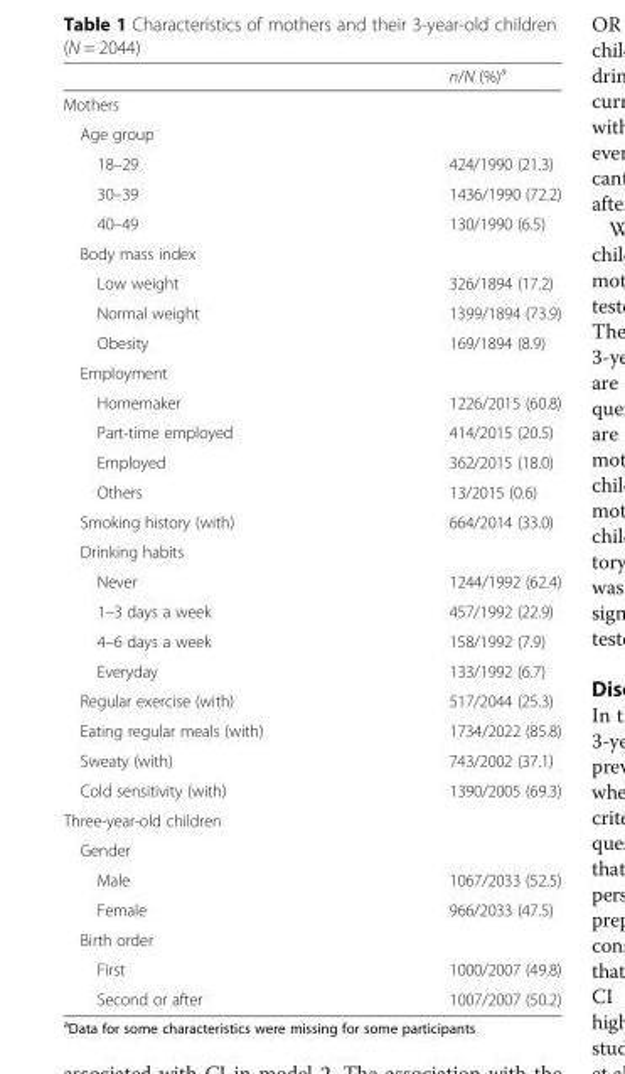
<table><thead><tr><td></td><td>n/N (%)<sup>a</sup></td></tr></thead><tbody><tr><td colspan="2">Mothers</td></tr><tr><td colspan="2">Age group</td></tr><tr><td>18–29</td><td>424/1990 (21.3)</td></tr><tr><td>30–39</td><td>1436/1990 (72.2)</td></tr><tr><td>40–49</td><td>130/1990 (6.5)</td></tr><tr><td colspan="2">Body mass index</td></tr><tr><td>Low weight</td><td>326/1894 (17.2)</td></tr><tr><td>Normal weight</td><td>1399/1894 (73.9)</td></tr><tr><td>Obesity</td><td>169/1894 (8.9)</td></tr><tr><td colspan="2">Employment</td></tr><tr><td>Homemaker</td><td>1226/2015 (60.8)</td></tr><tr><td>Part-time employed</td><td>414/2015 (20.5)</td></tr><tr><td>Employed</td><td>362/2015 (18.0)</td></tr><tr><td>Others</td><td>13/2015 (0.6)</td></tr><tr><td>Smoking history (with)</td><td>664/2014 (33.0)</td></tr><tr><td colspan="2">Drinking habits</td></tr><tr><td>Never</td><td>1244/1992 (62.4)</td></tr><tr><td>1–3 days a week</td><td>457/1992 (22.9)</td></tr><tr><td>4–6 days a week</td><td>158/1992 (7.9)</td></tr><tr><td>Everyday</td><td>133/1992 (6.7)</td></tr><tr><td>Regular exercise (with)</td><td>517/2044 (25.3)</td></tr><tr><td>Eating regular meals (with)</td><td>1734/2022 (85.8)</td></tr><tr><td>Sweaty (with)</td><td>743/2002 (37.1)</td></tr><tr><td>Cold sensitivity (with)</td><td>1390/2005 (69.3)</td></tr><tr><td colspan="2">Three-year-old children</td></tr><tr><td colspan="2">Gender</td></tr><tr><td>Male</td><td>1067/2033 (52.5)</td></tr><tr><td>Female</td><td>966/2033 (47.5)</td></tr><tr><td colspan="2">Birth order</td></tr><tr><td>First</td><td>1000/2007 (49.8)</td></tr><tr><td>Second or after</td><td>1007/2007 (50.2)</td></tr></tbody></table>